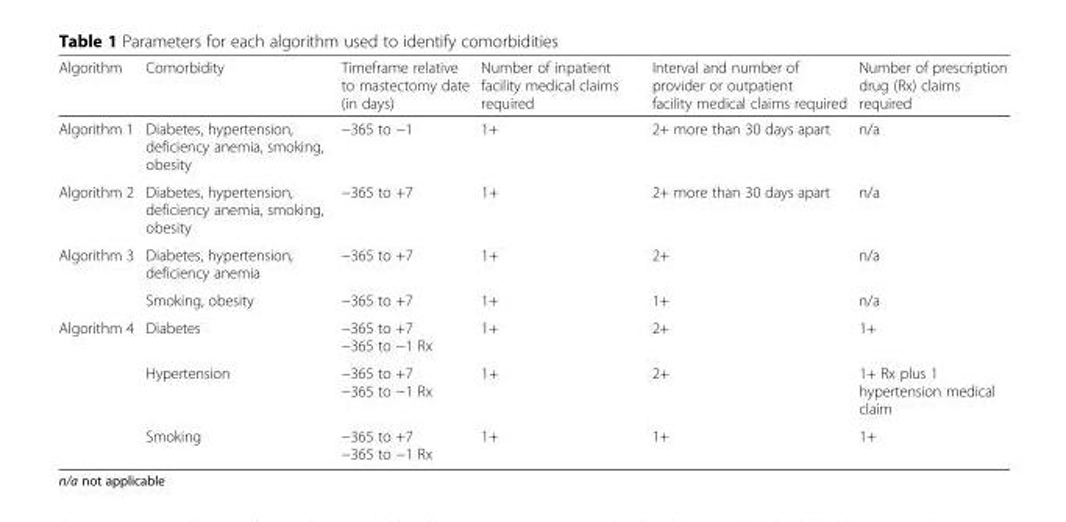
<table><thead><tr><td>Algorithm</td><td>Comorbidity</td><td>Timeframe relative to mastectomy date (in days)</td><td>Number of inpatient facility medical claims required</td><td>Interval and number of provider or outpatient facility medical claims required</td><td>Number of prescription drug (Rx) claims required</td></tr></thead><tbody><tr><td>Algorithm 1</td><td>Diabetes, hypertension, deficiency anemia, smoking, obesity</td><td>−365 to −1</td><td>1+</td><td>2+ more than 30 days apart</td><td>n/a</td></tr><tr><td>Algorithm 2</td><td>Diabetes, hypertension, deficiency anemia, smoking, obesity</td><td>−365 to +7</td><td>1+</td><td>2+ more than 30 days apart</td><td>n/a</td></tr><tr><td rowspan="2">Algorithm 3</td><td>Diabetes, hypertension, deficiency anemia</td><td>−365 to +7</td><td>1+</td><td>2+</td><td>n/a</td></tr><tr><td>Smoking, obesity</td><td>−365 to +7</td><td>1+</td><td>1+</td><td>n/a</td></tr><tr><td rowspan="3">Algorithm 4</td><td>Diabetes</td><td>−365 to +7 −365 to −1 Rx</td><td>1+</td><td>2+</td><td>1+</td></tr><tr><td>Hypertension</td><td>−365 to +7 −365 to −1 Rx</td><td>1+</td><td>2+</td><td>1+ Rx plus 1 hypertension medical claim</td></tr><tr><td>Smoking</td><td>−365 to +7 −365 to −1 Rx</td><td>1+</td><td>1+</td><td>1+</td></tr></tbody></table>